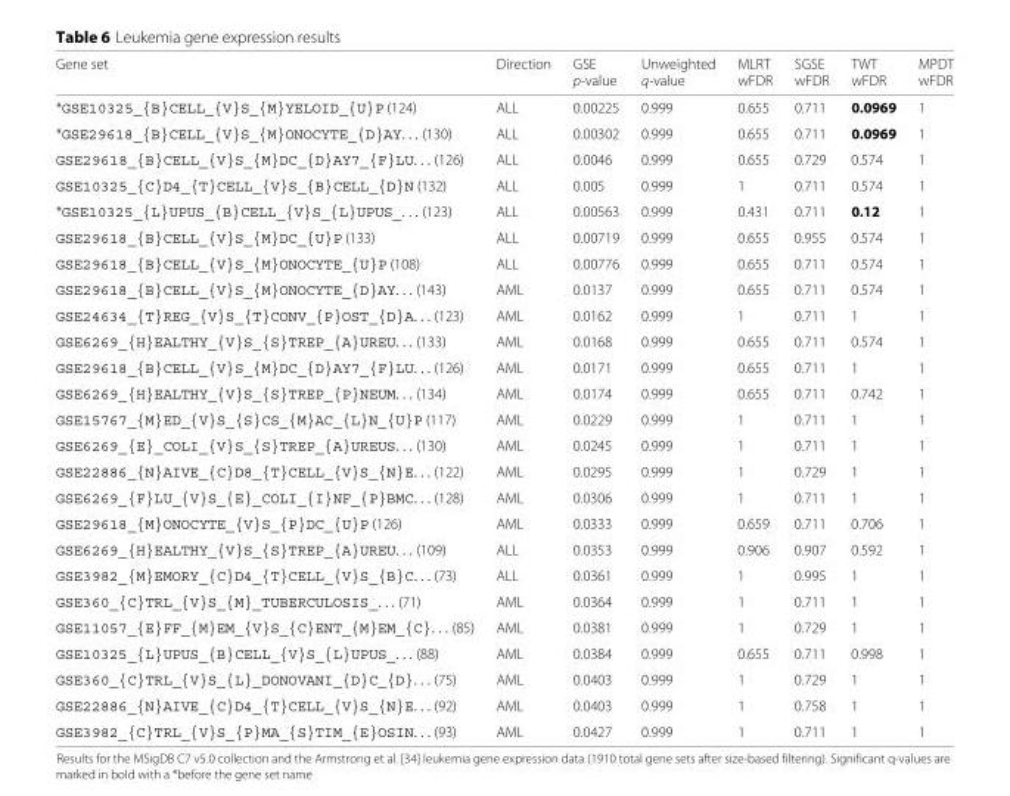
<table><thead><tr><td rowspan="2">Gene set</td><td rowspan="2">Direction</td><td rowspan="2">GSE p-value</td><td rowspan="2">Unweighted q-value</td><td rowspan="2">MLRT wFDR</td><td rowspan="2">SGSE wFDR</td><td rowspan="2">TWT wFDR</td><td rowspan="2">MPDT wFDR</td></tr><tr></tr></thead><tbody><tr><td>*GSE10325_{B}CELL_{V}S_{M}YELOID_{U}P (124)</td><td>ALL</td><td>0.00225</td><td>0.999</td><td>0.655</td><td>0.711</td><td>0.0969</td><td>1</td></tr><tr><td>*GSE29618_{B}CELL_{V}S_{M}ONOCYTE_{D}AY. . . (130)</td><td>ALL</td><td>0.00302</td><td>0.999</td><td>0.655</td><td>0.711</td><td>0.0969</td><td>1</td></tr><tr><td>GSE29618_{B}CELL_{V}S_{M}DC_{D}AY7_{F}LU. . . (126)</td><td>ALL</td><td>0.0046</td><td>0.999</td><td>0.655</td><td>0.729</td><td>0.574</td><td>1</td></tr><tr><td>GSE10325_{C}D4_{T}CELL_{V}S_{B}CELL_{D}N (132)</td><td>ALL</td><td>0.005</td><td>0.999</td><td>1</td><td>0.711</td><td>0.574</td><td>1</td></tr><tr><td>*GSE10325_{L}UPUS_{B}CELL_{V}S_{L}UPUS_. . . (123)</td><td>ALL</td><td>0.00563</td><td>0.999</td><td>0.431</td><td>0.711</td><td>0.12</td><td>1</td></tr><tr><td>GSE29618_{B}CELL_{V}S_{M}DC_{U}P (133)</td><td>ALL</td><td>0.00719</td><td>0.999</td><td>0.655</td><td>0.955</td><td>0.574</td><td>1</td></tr><tr><td>GSE29618_{B}CELL_{V}S_{M}ONOCYTE_{U}P (108)</td><td>ALL</td><td>0.00776</td><td>0.999</td><td>0.655</td><td>0.711</td><td>0.574</td><td>1</td></tr><tr><td>GSE29618_{B}CELL_{V}S_{M}ONOCYTE_{D}AY. . . (143)</td><td>AML</td><td>0.0137</td><td>0.999</td><td>0.655</td><td>0.711</td><td>0.574</td><td>1</td></tr><tr><td>GSE24634_{T}REG_{V}S_{T}CONV_{P}OST_{D}A. . . (123)</td><td>AML</td><td>0.0162</td><td>0.999</td><td>1</td><td>0.711</td><td>1</td><td>1</td></tr><tr><td>GSE6269_{H}EALTHY_{V}S_{S}TREP_{A}UREU. . . (133)</td><td>AML</td><td>0.0168</td><td>0.999</td><td>0.655</td><td>0.711</td><td>0.574</td><td>1</td></tr><tr><td>GSE29618_{B}CELL_{V}S_{M}DC_{D}AY7_{F}LU. . . (126)</td><td>AML</td><td>0.0171</td><td>0.999</td><td>0.655</td><td>0.711</td><td>1</td><td>1</td></tr><tr><td>GSE6269_{H}EALTHY_{V}S_{S}TREP_{P}NEUM. . . (134)</td><td>AML</td><td>0.0174</td><td>0.999</td><td>0.655</td><td>0.711</td><td>0.742</td><td>1</td></tr><tr><td>GSE15767_{M}ED_{V}S_{S}CS_{M}AC_{L}N_{U}P (117)</td><td>AML</td><td>0.0229</td><td>0.999</td><td>1</td><td>0.711</td><td>1</td><td>1</td></tr><tr><td>GSE6269_{E}_COLI_{V}S_{S}TREP_{A}UREUS. . . (130)</td><td>AML</td><td>0.0245</td><td>0.999</td><td>1</td><td>0.711</td><td>1</td><td>1</td></tr><tr><td>GSE22886_{N}AIVE_{C}D8_{T}CELL_{V}S_{N}E. . . (122)</td><td>AML</td><td>0.0295</td><td>0.999</td><td>1</td><td>0.729</td><td>1</td><td>1</td></tr><tr><td>GSE6269_{F}LU_{V}S_{E}_COLI_{I}NF_{P}BMC. . . (128)</td><td>AML</td><td>0.0306</td><td>0.999</td><td>1</td><td>0.711</td><td>1</td><td>1</td></tr><tr><td>GSE29618_{M}ONOCYTE_{V}S_{P}DC_{U}P (126)</td><td>AML</td><td>0.0333</td><td>0.999</td><td>0.659</td><td>0.711</td><td>0.706</td><td>1</td></tr><tr><td>GSE6269_{H}EALTHY_{V}S_{S}TREP_{A}UREU. . . (109)</td><td>ALL</td><td>0.0353</td><td>0.999</td><td>0.906</td><td>0.907</td><td>0.592</td><td>1</td></tr><tr><td>GSE3982_{M}EMORY_{C}D4_{T}CELL_{V}S_{B}C. . . (73)</td><td>ALL</td><td>0.0361</td><td>0.999</td><td>1</td><td>0.995</td><td>1</td><td>1</td></tr><tr><td>GSE360_{C}TRL_{V}S_{M}_TUBERCULOSIS_. . . (71)</td><td>AML</td><td>0.0364</td><td>0.999</td><td>1</td><td>0.711</td><td>1</td><td>1</td></tr><tr><td>GSE11057_{E}FF_{M}EM_{V}S_{C}ENT_{M}EM_{C}. . . (85)</td><td>AML</td><td>0.0381</td><td>0.999</td><td>1</td><td>0.729</td><td>1</td><td>1</td></tr><tr><td>GSE10325_{L}UPUS_{B}CELL_{V}S_{L}UPUS_. . . (88)</td><td>AML</td><td>0.0384</td><td>0.999</td><td>0.655</td><td>0.711</td><td>0.998</td><td>1</td></tr><tr><td>GSE360_{C}TRL_{V}S_{L}_DONOVANI_{D}C_{D}. . . (75)</td><td>AML</td><td>0.0403</td><td>0.999</td><td>1</td><td>0.729</td><td>1</td><td>1</td></tr><tr><td>GSE22886_{N}AIVE_{C}D4_{T}CELL_{V}S_{N}E. . . (92)</td><td>AML</td><td>0.0403</td><td>0.999</td><td>1</td><td>0.758</td><td>1</td><td>1</td></tr><tr><td>GSE3982_{C}TRL_{V}S_{P}MA_{S}TIM_{E}OSIN. . . (93)</td><td>AML</td><td>0.0427</td><td>0.999</td><td>1</td><td>0.711</td><td>1</td><td>1</td></tr></tbody></table>